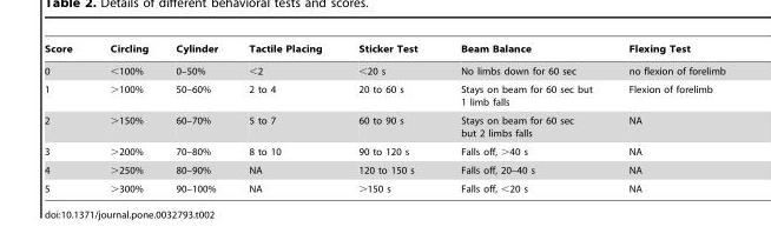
<table><thead><tr><td>Score</td><td>Circling</td><td>Cylinder</td><td>Tactile Placing</td><td>Sticker Test</td><td>Beam Balance</td><td>Flexing Test</td></tr></thead><tbody><tr><td>0</td><td>&lt;100%</td><td>0–50%</td><td>&lt;2</td><td>&lt;20 s</td><td>No limbs down for 60 sec</td><td>no flexion of forelimb</td></tr><tr><td>1</td><td>&gt;100%</td><td>50–60%</td><td>2 to 4</td><td>20 to 60 s</td><td>Stays on beam for 60 sec but 1 limb falls</td><td>Flexion of forelimb</td></tr><tr><td>2</td><td>&gt;150%</td><td>60–70%</td><td>5 to 7</td><td>60 to 90 s</td><td>Stays on beam for 60 sec but 2 limbs falls</td><td>NA</td></tr><tr><td>3</td><td>&gt;200%</td><td>70–80%</td><td>8 to 10</td><td>90 to 120 s</td><td>Falls off, &gt;40 s</td><td>NA</td></tr><tr><td>4</td><td>&gt;250%</td><td>80–90%</td><td>NA</td><td>120 to 150 s</td><td>Falls off, 20–40 s</td><td>NA</td></tr><tr><td>5</td><td>&gt;300%</td><td>90–100%</td><td>NA</td><td>&gt;150 s</td><td>Falls off, &lt;20 s</td><td>NA</td></tr></tbody></table>